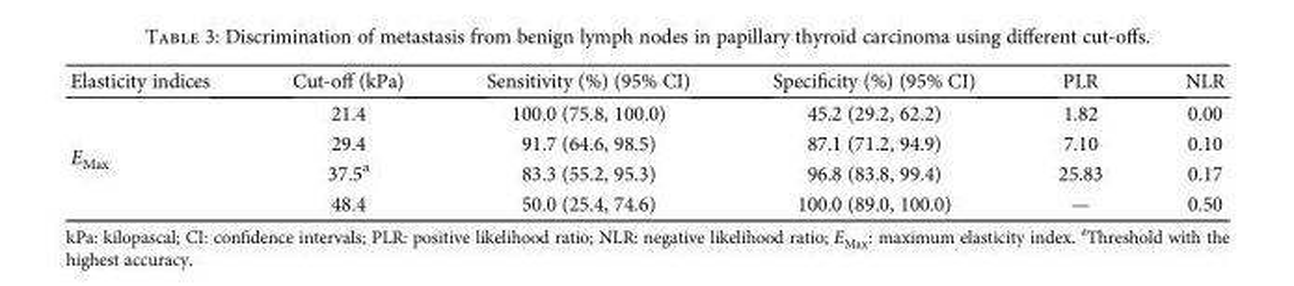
<table><thead><tr><td>Elasticity indices</td><td>Cut-off (kPa)</td><td>Sensitivity (%) (95% CI)</td><td>Specificity (%) (95% CI)</td><td>PLR</td><td>NLR</td></tr></thead><tbody><tr><td rowspan="4">E<sub>Max</sub></td><td>21.4</td><td>100.0 (75.8, 100.0)</td><td>45.2 (29.2, 62.2)</td><td>1.82</td><td>0.00</td></tr><tr><td>29.4</td><td>91.7 (64.6, 98.5)</td><td>87.1 (71.2, 94.9)</td><td>7.10</td><td>0.10</td></tr><tr><td>37.5<sup>a</sup></td><td>83.3 (55.2, 95.3)</td><td>96.8 (83.8, 99.4)</td><td>25.83</td><td>0.17</td></tr><tr><td>48.4</td><td>50.0 (25.4, 74.6)</td><td>100.0 (89.0, 100.0)</td><td>—</td><td>0.50</td></tr></tbody></table>